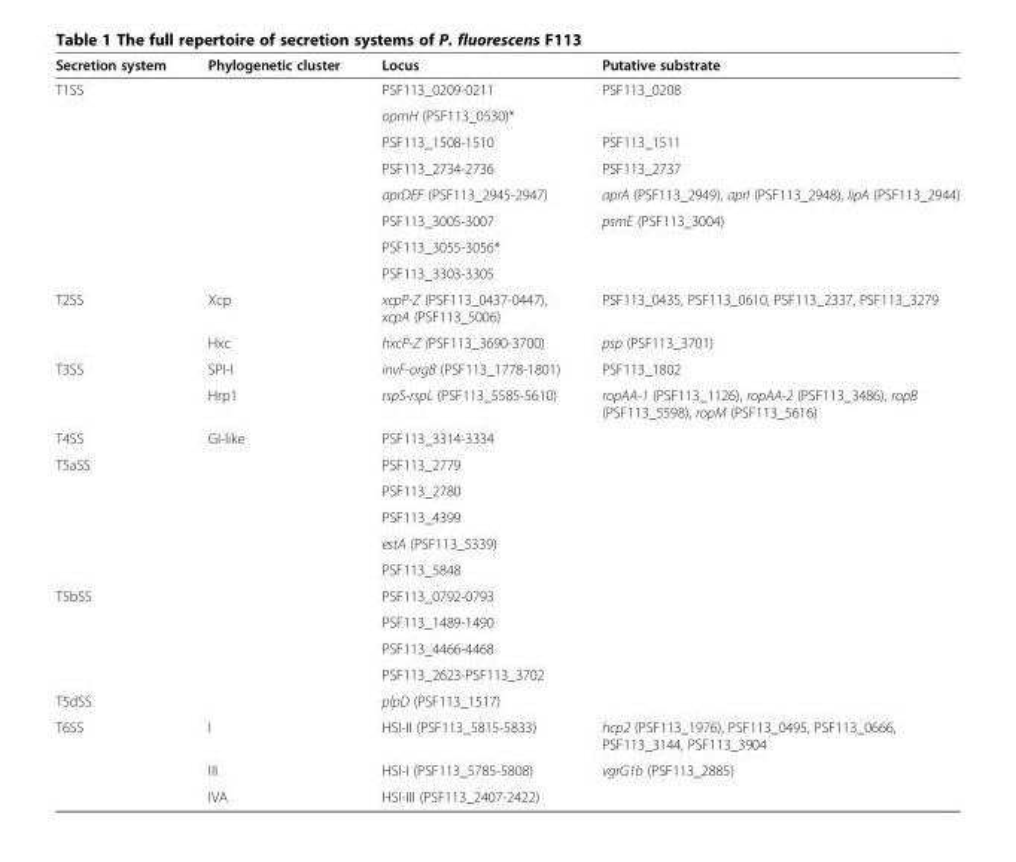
<table><thead><tr><td>Secretion system</td><td>Phylogenetic cluster</td><td>Locus</td><td>Putative substrate</td></tr></thead><tbody><tr><td rowspan="8">T1SS</td><td></td><td>PSF113_0209-0211</td><td>PSF113_0208</td></tr><tr><td></td><td>opmH (PSF113_0530)*</td><td></td></tr><tr><td></td><td>PSF113_1508-1510</td><td>PSF113_1511</td></tr><tr><td></td><td>PSF113_2734-2736</td><td>PSF113_2737</td></tr><tr><td></td><td>aprDEF (PSF113_2945-2947)</td><td>aprA (PSF113_2949), aprI (PSF113_2948), lipA (PSF113_2944)</td></tr><tr><td></td><td>PSF113_3005-3007</td><td>psmE (PSF113_3004)</td></tr><tr><td></td><td>PSF113_3055-3056*</td><td></td></tr><tr><td></td><td>PSF113_3303-3305</td><td></td></tr><tr><td rowspan="2">T2SS</td><td>Xcp</td><td>xcpP-Z (PSF113_0437-0447), xcpA (PSF113_5006)</td><td>PSF113_0435, PSF113_0610, PSF113_2337, PSF113_3279</td></tr><tr><td>Hxc</td><td>hxcP-Z (PSF113_3690-3700)</td><td>psp (PSF113_3701)</td></tr><tr><td rowspan="2">T3SS</td><td>SPI-I</td><td>invF-orgB (PSF113_1778-1801)</td><td>PSF113_1802</td></tr><tr><td>Hrp1</td><td>rspS-rspL (PSF113_5585-5610)</td><td>ropAA-1 (PSF113_1126), ropAA-2 (PSF113_3486), ropB (PSF113_5598), ropM (PSF113_5616)</td></tr><tr><td>T4SS</td><td>GI-like</td><td>PSF113_3314-3334</td><td></td></tr><tr><td rowspan="5">T5aSS</td><td></td><td>PSF113_2779</td><td></td></tr><tr><td></td><td>PSF113_2780</td><td></td></tr><tr><td></td><td>PSF113_4399</td><td></td></tr><tr><td></td><td>estA (PSF113_5339)</td><td></td></tr><tr><td></td><td>PSF113_5848</td><td></td></tr><tr><td rowspan="4">T5bSS</td><td></td><td>PSF113_0792-0793</td><td></td></tr><tr><td></td><td>PSF113_1489-1490</td><td></td></tr><tr><td></td><td>PSF113_4466-4468</td><td></td></tr><tr><td></td><td>PSF113_2623-PSF113_3702</td><td></td></tr><tr><td>T5dSS</td><td></td><td>plpD (PSF113_1517)</td><td></td></tr><tr><td rowspan="3">T6SS</td><td>I</td><td>HSI-II (PSF113_5815-5833)</td><td>hcp2 (PSF113_1976), PSF113_0495, PSF113_0666, PSF113_3144, PSF113_3904</td></tr><tr><td>III</td><td>HSI-I (PSF113_5785-5808)</td><td>vgrG1b (PSF113_2885)</td></tr><tr><td>IVA</td><td>HSI-III (PSF113_2407-2422)</td><td></td></tr></tbody></table>